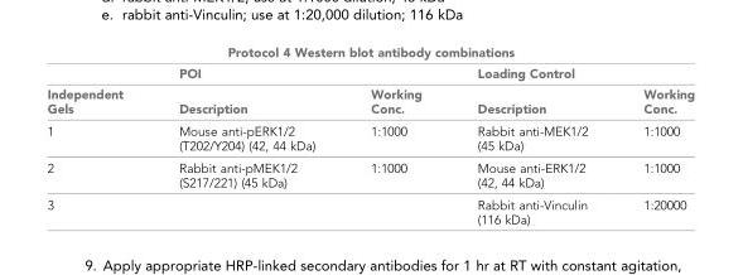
<table><thead><tr><td colspan="5">Protocol 4 Western blot antibody combinations</td></tr><tr><td rowspan="2">Independent Gels</td><td colspan="2">POI</td><td colspan="2">Loading Control</td></tr><tr><td>Description</td><td>Working Conc.</td><td>Description</td><td>Working Conc.</td></tr></thead><tbody><tr><td>1</td><td>Mouse anti-pERK1/2 (T202/Y204) (42, 44 kDa)</td><td>1:1000</td><td>Rabbit anti-MEK1/2 (45 kDa)</td><td>1:1000</td></tr><tr><td>2</td><td>Rabbit anti-pMEK1/2 (S217/221) (45 kDa)</td><td>1:1000</td><td>Mouse anti-ERK1/2 (42, 44 kDa)</td><td>1:1000</td></tr><tr><td>3</td><td></td><td></td><td>Rabbit anti-Vinculin (116 kDa)</td><td>1:20000</td></tr></tbody></table>